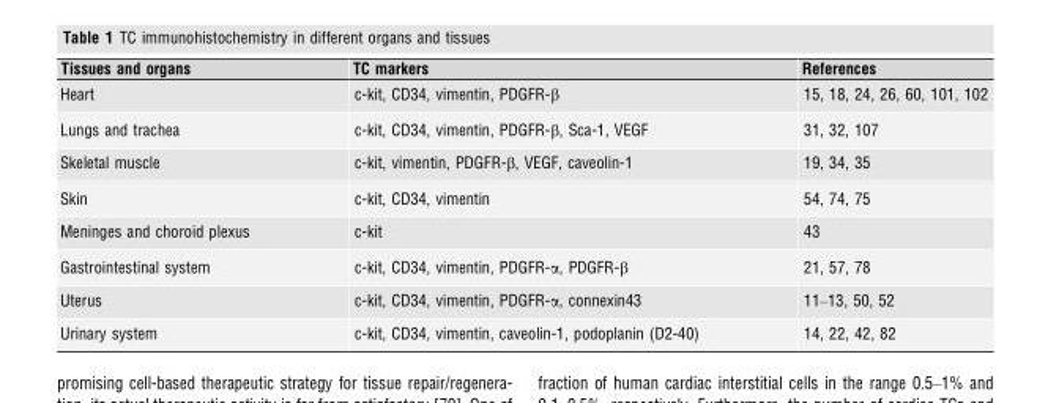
<table><thead><tr><td>Tissues and organs</td><td>TC markers</td><td>References</td></tr></thead><tbody><tr><td>Heart</td><td>c-kit, CD34, vimentin, PDGFR-β</td><td>15, 18, 24, 26, 60, 101, 102</td></tr><tr><td>Lungs and trachea</td><td>c-kit, CD34, vimentin, PDGFR-β, Sca-1, VEGF</td><td>31, 32, 107</td></tr><tr><td>Skeletal muscle</td><td>c-kit, vimentin, PDGFR-β, VEGF, caveolin-1</td><td>19, 34, 35</td></tr><tr><td>Skin</td><td>c-kit, CD34, vimentin</td><td>54, 74, 75</td></tr><tr><td>Meninges and choroid plexus</td><td>c-kit</td><td>43</td></tr><tr><td>Gastrointestinal system</td><td>c-kit, CD34, vimentin, PDGFR-α, PDGFR-β</td><td>21, 57, 78</td></tr><tr><td>Uterus</td><td>c-kit, CD34, vimentin, PDGFR-α, connexin43</td><td>11–13, 50, 52</td></tr><tr><td>Urinary system</td><td>c-kit, CD34, vimentin, caveolin-1, podoplanin (D2-40)</td><td>14, 22, 42, 82</td></tr></tbody></table>